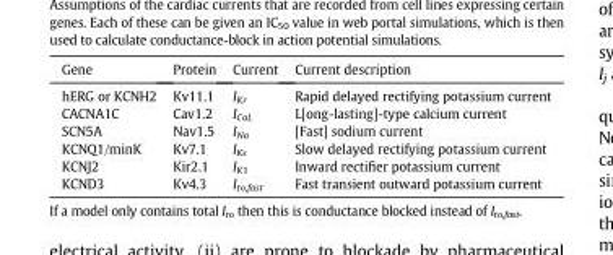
<table><thead><tr><td>Gene</td><td>Protein</td><td>Current</td><td>Current description</td></tr></thead><tbody><tr><td>hERG or KCNH2</td><td>Kv11.1</td><td>I<sub>Kr</sub></td><td>Rapid delayed rectifying potassium current</td></tr><tr><td>CACNA1C</td><td>Cav1.2</td><td>I<sub>CaL</sub></td><td>L[ong-lasting]-type calcium current</td></tr><tr><td>SCN5A</td><td>Nav1.5</td><td>I<sub>Na</sub></td><td>[Fast] sodium current</td></tr><tr><td>KCNQ1/minK</td><td>Kv7.1</td><td>I<sub>Ks</sub></td><td>Slow delayed rectifying potassium current</td></tr><tr><td>KCNJ2</td><td>Kir2.1</td><td>I<sub>K1</sub></td><td>Inward rectifier potassium current</td></tr><tr><td>KCND3</td><td>Kv4.3</td><td>I<sub>to,fast</sub></td><td>Fast transient outward potassium current</td></tr></tbody></table>